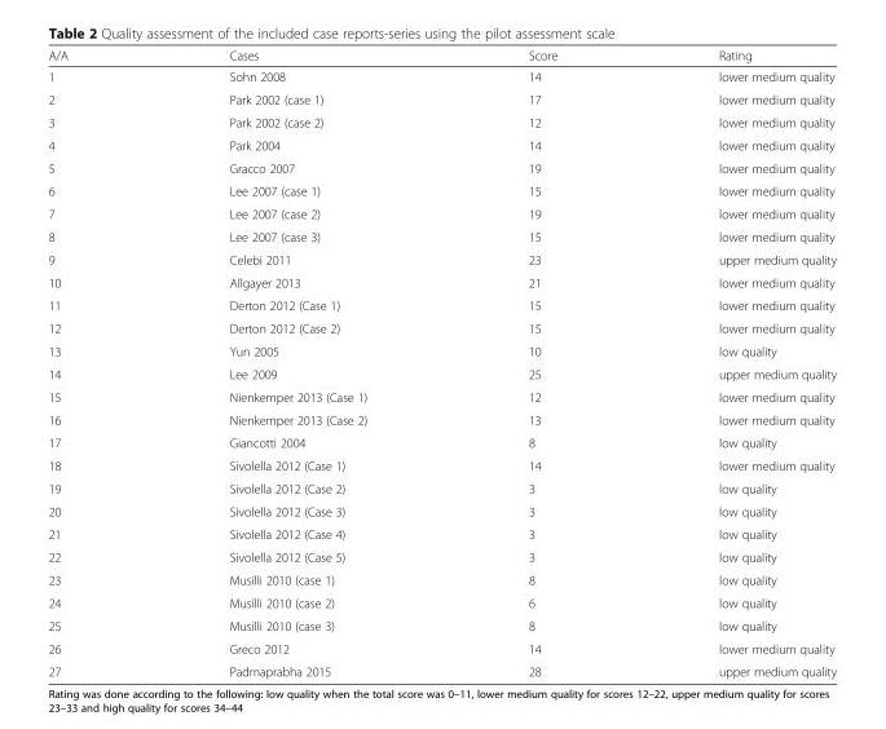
<table><thead><tr><td>A/A</td><td>Cases</td><td>Score</td><td>Rating</td></tr></thead><tbody><tr><td>1</td><td>Sohn 2008</td><td>14</td><td>lower medium quality</td></tr><tr><td>2</td><td>Park 2002 (case 1)</td><td>17</td><td>lower medium quality</td></tr><tr><td>3</td><td>Park 2002 (case 2)</td><td>12</td><td>lower medium quality</td></tr><tr><td>4</td><td>Park 2004</td><td>14</td><td>lower medium quality</td></tr><tr><td>5</td><td>Gracco 2007</td><td>19</td><td>lower medium quality</td></tr><tr><td>6</td><td>Lee 2007 (case 1)</td><td>15</td><td>lower medium quality</td></tr><tr><td>7</td><td>Lee 2007 (case 2)</td><td>19</td><td>lower medium quality</td></tr><tr><td>8</td><td>Lee 2007 (case 3)</td><td>15</td><td>lower medium quality</td></tr><tr><td>9</td><td>Celebi 2011</td><td>23</td><td>upper medium quality</td></tr><tr><td>10</td><td>Allgayer 2013</td><td>21</td><td>lower medium quality</td></tr><tr><td>11</td><td>Derton 2012 (Case 1)</td><td>15</td><td>lower medium quality</td></tr><tr><td>12</td><td>Derton 2012 (Case 2)</td><td>15</td><td>lower medium quality</td></tr><tr><td>13</td><td>Yun 2005</td><td>10</td><td>low quality</td></tr><tr><td>14</td><td>Lee 2009</td><td>25</td><td>upper medium quality</td></tr><tr><td>15</td><td>Nienkemper 2013 (Case 1)</td><td>12</td><td>lower medium quality</td></tr><tr><td>16</td><td>Nienkemper 2013 (Case 2)</td><td>13</td><td>lower medium quality</td></tr><tr><td>17</td><td>Giancotti 2004</td><td>8</td><td>low quality</td></tr><tr><td>18</td><td>Sivolella 2012 (Case 1)</td><td>14</td><td>lower medium quality</td></tr><tr><td>19</td><td>Sivolella 2012 (Case 2)</td><td>3</td><td>low quality</td></tr><tr><td>20</td><td>Sivolella 2012 (Case 3)</td><td>3</td><td>low quality</td></tr><tr><td>21</td><td>Sivolella 2012 (Case 4)</td><td>3</td><td>low quality</td></tr><tr><td>22</td><td>Sivolella 2012 (Case 5)</td><td>3</td><td>low quality</td></tr><tr><td>23</td><td>Musilli 2010 (case 1)</td><td>8</td><td>low quality</td></tr><tr><td>24</td><td>Musilli 2010 (case 2)</td><td>6</td><td>low quality</td></tr><tr><td>25</td><td>Musilli 2010 (case 3)</td><td>8</td><td>low quality</td></tr><tr><td>26</td><td>Greco 2012</td><td>14</td><td>lower medium quality</td></tr><tr><td>27</td><td>Padmaprabha 2015</td><td>28</td><td>upper medium quality</td></tr></tbody></table>